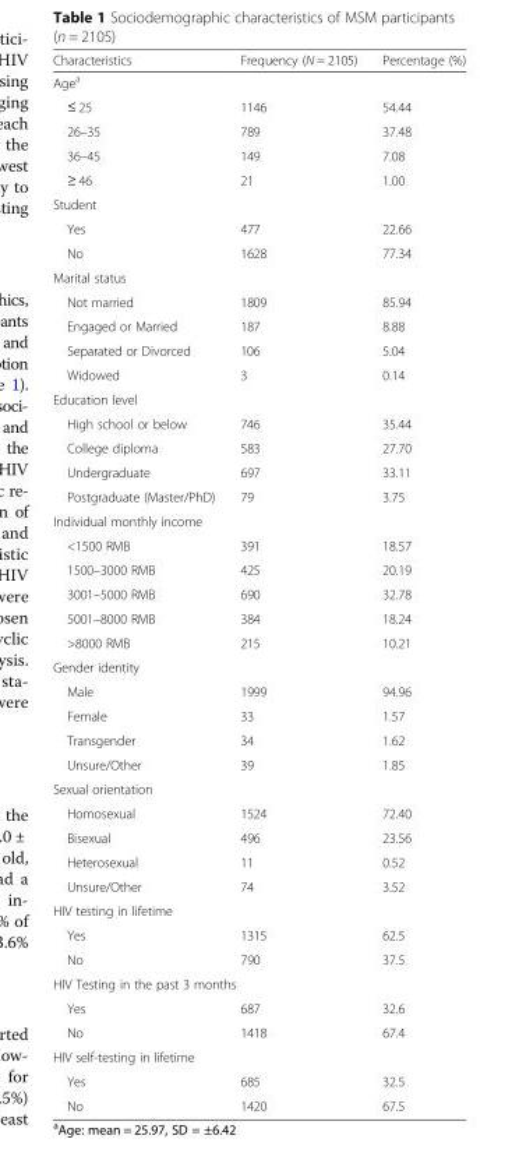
<table><thead><tr><td>Characteristics</td><td>Frequency (N = 2105)</td><td>Percentage (%)</td></tr></thead><tbody><tr><td colspan="3">Age<sup>a</sup></td></tr><tr><td>≤ 25</td><td>1146</td><td>54.44</td></tr><tr><td>26–35</td><td>789</td><td>37.48</td></tr><tr><td>36–45</td><td>149</td><td>7.08</td></tr><tr><td>≥ 46</td><td>21</td><td>1.00</td></tr><tr><td colspan="3">Student</td></tr><tr><td>Yes</td><td>477</td><td>22.66</td></tr><tr><td>No</td><td>1628</td><td>77.34</td></tr><tr><td colspan="3">Marital status</td></tr><tr><td>Not married</td><td>1809</td><td>85.94</td></tr><tr><td>Engaged or Married</td><td>187</td><td>8.88</td></tr><tr><td>Separated or Divorced</td><td>106</td><td>5.04</td></tr><tr><td>Widowed</td><td>3</td><td>0.14</td></tr><tr><td colspan="3">Education level</td></tr><tr><td>High school or below</td><td>746</td><td>35.44</td></tr><tr><td>College diploma</td><td>583</td><td>27.70</td></tr><tr><td>Undergraduate</td><td>697</td><td>33.11</td></tr><tr><td>Postgraduate (Master/PhD)</td><td>79</td><td>3.75</td></tr><tr><td colspan="3">Individual monthly income</td></tr><tr><td>&lt;1500 RMB</td><td>391</td><td>18.57</td></tr><tr><td>1500–3000 RMB</td><td>425</td><td>20.19</td></tr><tr><td>3001–5000 RMB</td><td>690</td><td>32.78</td></tr><tr><td>5001–8000 RMB</td><td>384</td><td>18.24</td></tr><tr><td>&gt;8000 RMB</td><td>215</td><td>10.21</td></tr><tr><td colspan="3">Gender identity</td></tr><tr><td>Male</td><td>1999</td><td>94.96</td></tr><tr><td>Female</td><td>33</td><td>1.57</td></tr><tr><td>Transgender</td><td>34</td><td>1.62</td></tr><tr><td>Unsure/Other</td><td>39</td><td>1.85</td></tr><tr><td colspan="3">Sexual orientation</td></tr><tr><td>Homosexual</td><td>1524</td><td>72.40</td></tr><tr><td>Bisexual</td><td>496</td><td>23.56</td></tr><tr><td>Heterosexual</td><td>11</td><td>0.52</td></tr><tr><td>Unsure/Other</td><td>74</td><td>3.52</td></tr><tr><td colspan="3">HIV testing in lifetime</td></tr><tr><td>Yes</td><td>1315</td><td>62.5</td></tr><tr><td>No</td><td>790</td><td>37.5</td></tr><tr><td colspan="3">HIV Testing in the past 3 months</td></tr><tr><td>Yes</td><td>687</td><td>32.6</td></tr><tr><td>No</td><td>1418</td><td>67.4</td></tr><tr><td colspan="3">HIV self-testing in lifetime</td></tr><tr><td>Yes</td><td>685</td><td>32.5</td></tr><tr><td>No</td><td>1420</td><td>67.5</td></tr></tbody></table>